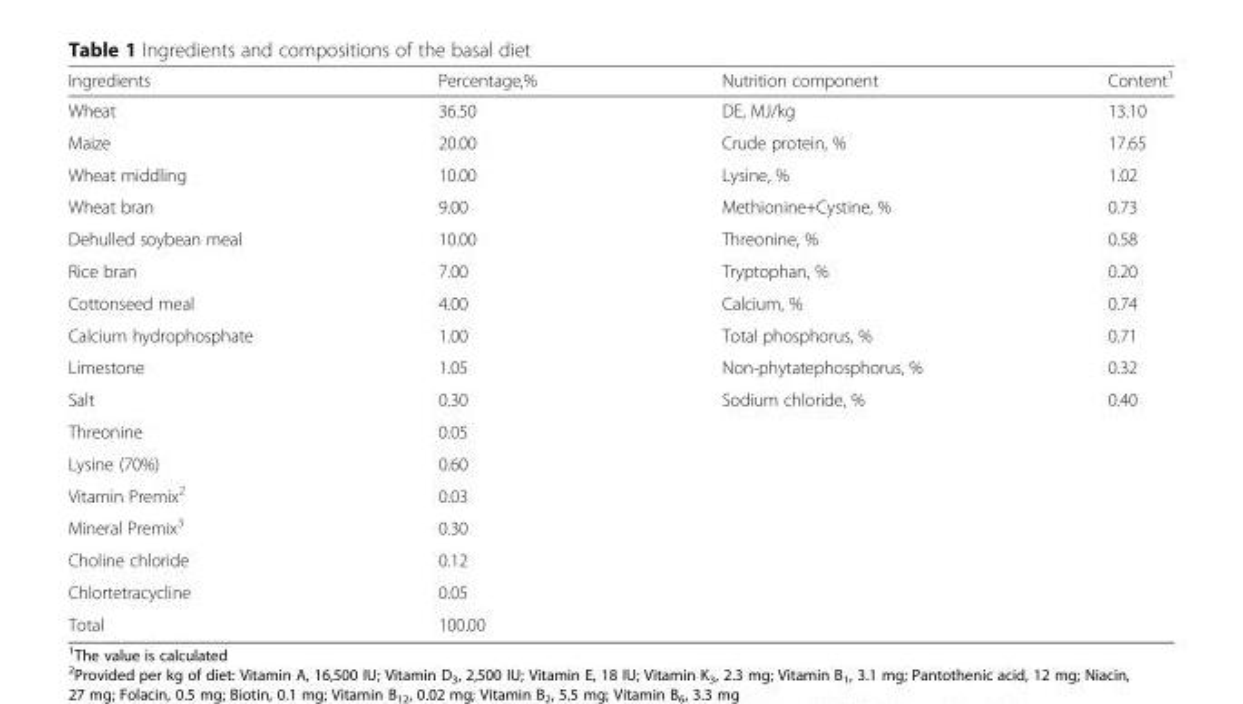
<table><thead><tr><td>Ingredients</td><td>Percentage,%</td><td>Nutrition component</td><td>Content<sup>1</sup></td></tr></thead><tbody><tr><td>Wheat</td><td>36.50</td><td>DE, MJ/kg</td><td>13.10</td></tr><tr><td>Maize</td><td>20.00</td><td>Crude protein, %</td><td>17.65</td></tr><tr><td>Wheat middling</td><td>10.00</td><td>Lysine, %</td><td>1.02</td></tr><tr><td>Wheat bran</td><td>9.00</td><td>Methionine+Cystine, %</td><td>0.73</td></tr><tr><td>Dehulled soybean meal</td><td>10.00</td><td>Threonine, %</td><td>0.58</td></tr><tr><td>Rice bran</td><td>7.00</td><td>Tryptophan, %</td><td>0.20</td></tr><tr><td>Cottonseed meal</td><td>4.00</td><td>Calcium, %</td><td>0.74</td></tr><tr><td>Calcium hydrophosphate</td><td>1.00</td><td>Total phosphorus, %</td><td>0.71</td></tr><tr><td>Limestone</td><td>1.05</td><td>Non-phytatephosphorus, %</td><td>0.32</td></tr><tr><td>Salt</td><td>0.30</td><td>Sodium chloride, %</td><td>0.40</td></tr><tr><td>Threonine</td><td>0.05</td><td></td><td></td></tr><tr><td>Lysine (70%)</td><td>0.60</td><td></td><td></td></tr><tr><td>Vitamin Premix<sup>2</sup></td><td>0.03</td><td></td><td></td></tr><tr><td>Mineral Premix<sup>3</sup></td><td>0.30</td><td></td><td></td></tr><tr><td>Choline chloride</td><td>0.12</td><td></td><td></td></tr><tr><td>Chlortetracycline</td><td>0.05</td><td></td><td></td></tr><tr><td>Total</td><td>100.00</td><td></td><td></td></tr></tbody></table>